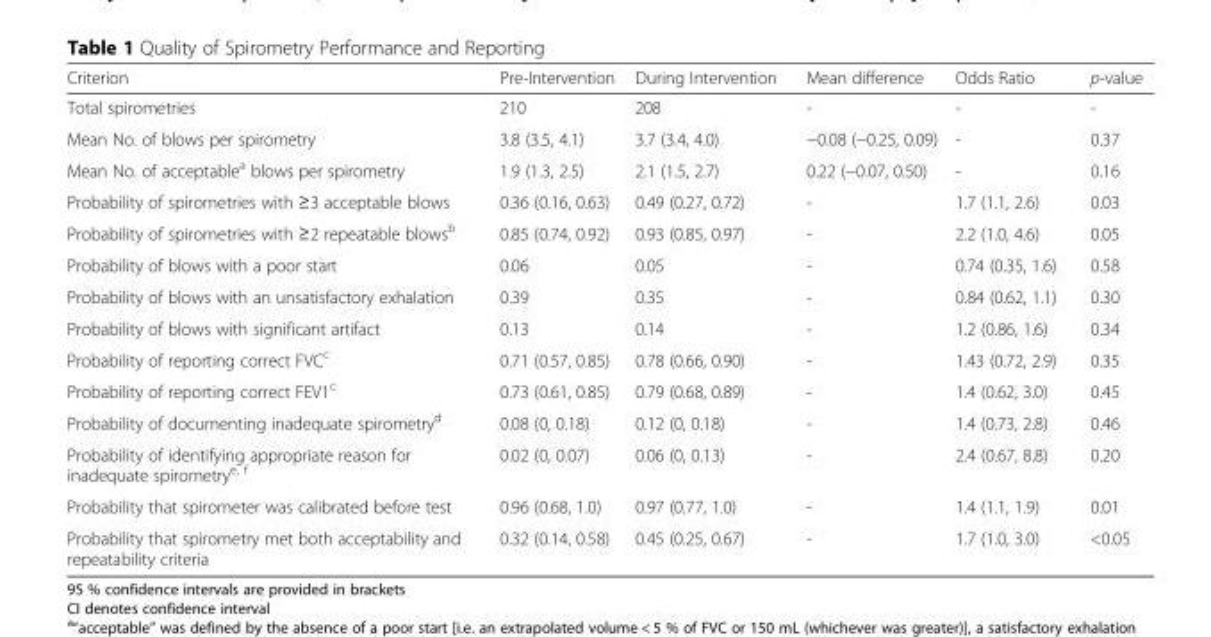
<table><thead><tr><td>Criterion</td><td>Pre-Intervention</td><td>During Intervention</td><td>Mean difference</td><td>Odds Ratio</td><td>p-value</td></tr></thead><tbody><tr><td>Total spirometries</td><td>210</td><td>208</td><td>-</td><td>-</td><td>-</td></tr><tr><td>Mean No. of blows per spirometry</td><td>3.8 (3.5, 4.1)</td><td>3.7 (3.4, 4.0)</td><td>−0.08 (−0.25, 0.09)</td><td>-</td><td>0.37</td></tr><tr><td>Mean No. of acceptable<sup>a</sup> blows per spirometry</td><td>1.9 (1.3, 2.5)</td><td>2.1 (1.5, 2.7)</td><td>0.22 (−0.07, 0.50)</td><td>-</td><td>0.16</td></tr><tr><td>Probability of spirometries with ≥3 acceptable blows</td><td>0.36 (0.16, 0.63)</td><td>0.49 (0.27, 0.72)</td><td>-</td><td>1.7 (1.1, 2.6)</td><td>0.03</td></tr><tr><td>Probability of spirometries with ≥2 repeatable blows<sup>b</sup></td><td>0.85 (0.74, 0.92)</td><td>0.93 (0.85, 0.97)</td><td>-</td><td>2.2 (1.0, 4.6)</td><td>0.05</td></tr><tr><td>Probability of blows with a poor start</td><td>0.06</td><td>0.05</td><td>-</td><td>0.74 (0.35, 1.6)</td><td>0.58</td></tr><tr><td>Probability of blows with an unsatisfactory exhalation</td><td>0.39</td><td>0.35</td><td>-</td><td>0.84 (0.62, 1.1)</td><td>0.30</td></tr><tr><td>Probability of blows with significant artifact</td><td>0.13</td><td>0.14</td><td>-</td><td>1.2 (0.86, 1.6)</td><td>0.34</td></tr><tr><td>Probability of reporting correct FVC<sup>c</sup></td><td>0.71 (0.57, 0.85)</td><td>0.78 (0.66, 0.90)</td><td>-</td><td>1.43 (0.72, 2.9)</td><td>0.35</td></tr><tr><td>Probability of reporting correct FEV1<sup>c</sup></td><td>0.73 (0.61, 0.85)</td><td>0.79 (0.68, 0.89)</td><td>-</td><td>1.4 (0.62, 3.0)</td><td>0.45</td></tr><tr><td>Probability of documenting inadequate spirometry<sup>d</sup></td><td>0.08 (0, 0.18)</td><td>0.12 (0, 0.18)</td><td>-</td><td>1.4 (0.73, 2.8)</td><td>0.46</td></tr><tr><td>Probability of identifying appropriate reason for inadequate spirometry<sup>e, f</sup></td><td>0.02 (0, 0.07)</td><td>0.06 (0, 0.13)</td><td>-</td><td>2.4 (0.67, 8.8)</td><td>0.20</td></tr><tr><td>Probability that spirometer was calibrated before test</td><td>0.96 (0.68, 1.0)</td><td>0.97 (0.77, 1.0)</td><td>-</td><td>1.4 (1.1, 1.9)</td><td>0.01</td></tr><tr><td>Probability that spirometry met both acceptability and repeatability criteria</td><td>0.32 (0.14, 0.58)</td><td>0.45 (0.25, 0.67)</td><td>-</td><td>1.7 (1.0, 3.0)</td><td>&lt;0.05</td></tr></tbody></table>